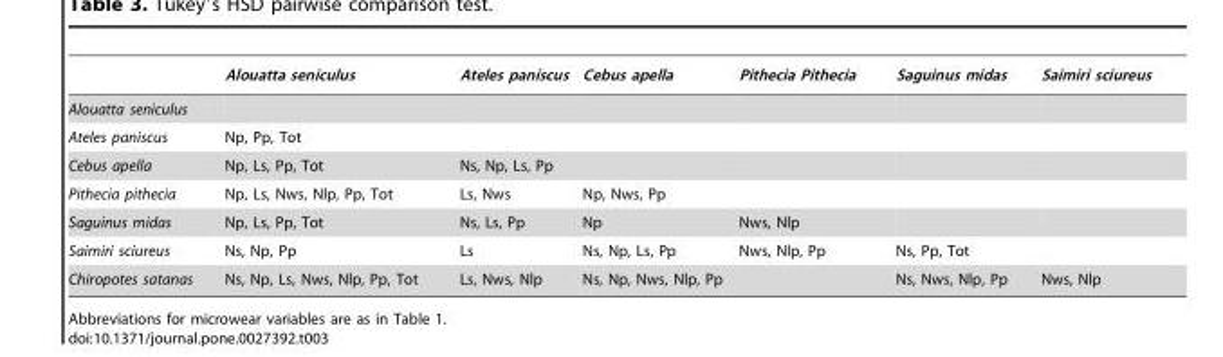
<table><thead><tr><td></td><td>Alouatta seniculus</td><td>Ateles paniscus</td><td>Cebus apella</td><td>Pithecia Pithecia</td><td>Saguinus midas</td><td>Saimiri sciureus</td></tr></thead><tbody><tr><td colspan="7">Alouatta seniculus</td></tr><tr><td>Ateles paniscus</td><td>Np, Pp, Tot</td><td></td><td></td><td></td><td></td><td></td></tr><tr><td>Cebus apella</td><td>Np, Ls, Pp, Tot</td><td>Ns, Np, Ls, Pp</td><td></td><td></td><td></td><td></td></tr><tr><td>Pithecia pithecia</td><td>Np, Ls, Nws, Nlp, Pp, Tot</td><td>Ls, Nws</td><td>Np, Nws, Pp</td><td></td><td></td><td></td></tr><tr><td>Saguinus midas</td><td>Np, Ls, Pp, Tot</td><td>Ns, Ls, Pp</td><td>Np</td><td>Nws, Nlp</td><td></td><td></td></tr><tr><td>Saimiri sciureus</td><td>Ns, Np, Pp</td><td>Ls</td><td>Ns, Np, Ls, Pp</td><td>Nws, Nlp, Pp</td><td>Ns, Pp, Tot</td><td></td></tr><tr><td>Chiropotes satanas</td><td>Ns, Np, Ls, Nws, Nlp, Pp, Tot</td><td>Ls, Nws, Nlp</td><td>Ns, Np, Nws, Nlp, Pp</td><td></td><td>Ns, Nws, Nlp, Pp</td><td>Nws, Nlp</td></tr></tbody></table>